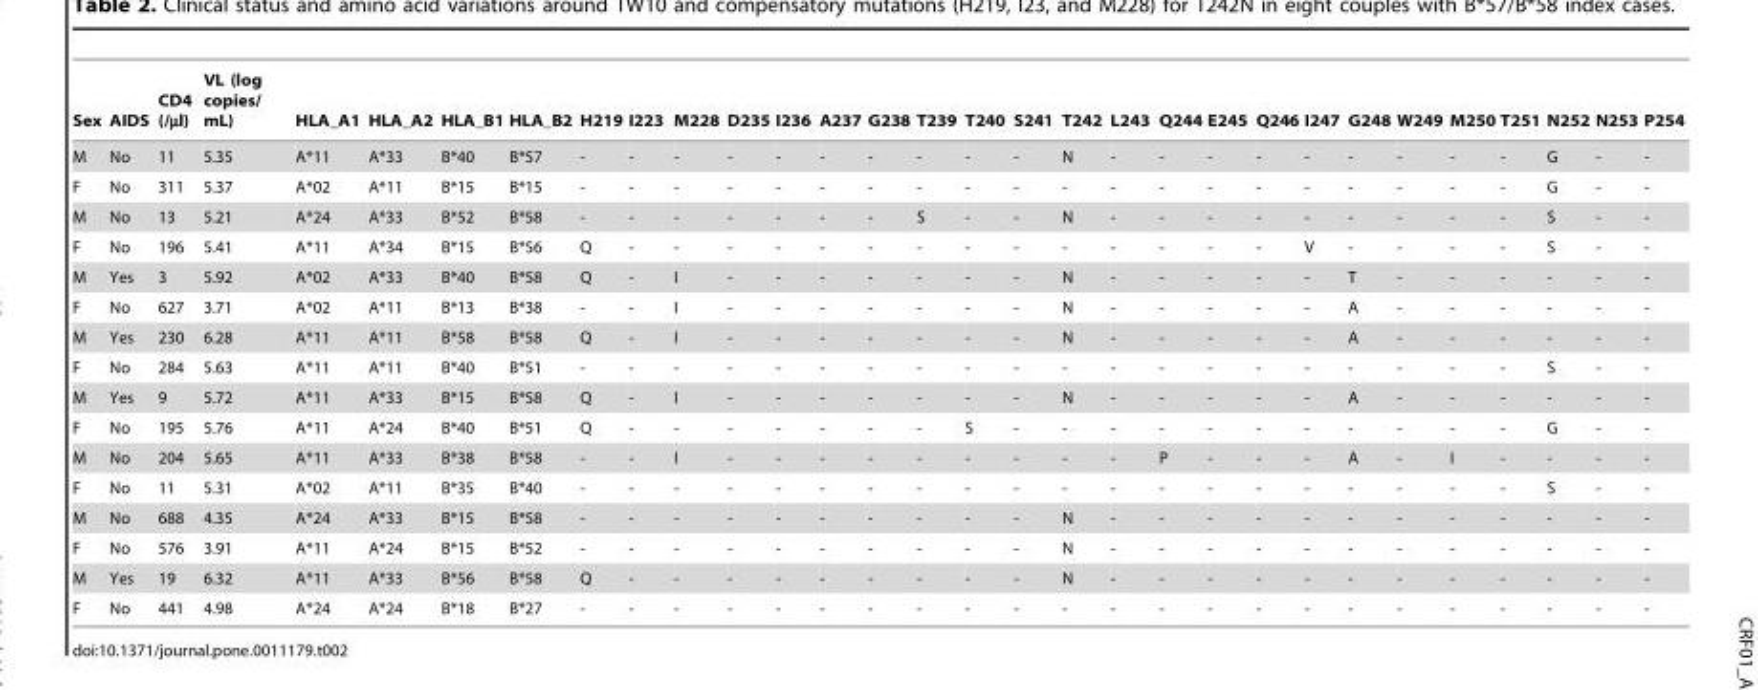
<table><thead><tr><td>Sex</td><td>AIDS</td><td>CD4 (/µl)</td><td>VL (log copies/ mL)</td><td>HLA_A1</td><td>HLA_A2</td><td>HLA_B1</td><td>HLA_B2</td><td>H219</td><td>I223</td><td>M228</td><td>D235</td><td>I236</td><td>A237</td><td>G238</td><td>T239</td><td>T240</td><td>S241</td><td>T242</td><td>L243</td><td>Q244</td><td>E245</td><td>Q246</td><td>I247</td><td>G248</td><td>W249</td><td>M250</td><td>T251</td><td>N252</td><td>N253</td><td>P254</td></tr></thead><tbody><tr><td>M</td><td>No</td><td>11</td><td>5.35</td><td>A*11</td><td>A*33</td><td>B*40</td><td>B*57</td><td>-</td><td>-</td><td>-</td><td>-</td><td>-</td><td>-</td><td>-</td><td>-</td><td>-</td><td>-</td><td>N</td><td>-</td><td>-</td><td>-</td><td>-</td><td>-</td><td>-</td><td>-</td><td>-</td><td>-</td><td>G</td><td>-</td><td>-</td></tr><tr><td>F</td><td>No</td><td>311</td><td>5.37</td><td>A*02</td><td>A*11</td><td>B*15</td><td>B*15</td><td>-</td><td>-</td><td>-</td><td>-</td><td>-</td><td>-</td><td>-</td><td>-</td><td>-</td><td>-</td><td>-</td><td>-</td><td>-</td><td>-</td><td>-</td><td>-</td><td>-</td><td>-</td><td>-</td><td>-</td><td>G</td><td>-</td><td>-</td></tr><tr><td>M</td><td>No</td><td>13</td><td>5.21</td><td>A*24</td><td>A*33</td><td>B*52</td><td>B*58</td><td>-</td><td>-</td><td>-</td><td>-</td><td>-</td><td>-</td><td>-</td><td>S</td><td>-</td><td>-</td><td>N</td><td>-</td><td>-</td><td>-</td><td>-</td><td>-</td><td>-</td><td>-</td><td>-</td><td>-</td><td>S</td><td>-</td><td>-</td></tr><tr><td>F</td><td>No</td><td>196</td><td>5.41</td><td>A*11</td><td>A*34</td><td>B*15</td><td>B*56</td><td>Q</td><td>-</td><td>-</td><td>-</td><td>-</td><td>-</td><td>-</td><td>-</td><td>-</td><td>-</td><td>-</td><td>-</td><td>-</td><td>-</td><td>-</td><td>V</td><td>-</td><td>-</td><td>-</td><td>-</td><td>S</td><td>-</td><td>-</td></tr><tr><td>M</td><td>Yes</td><td>3</td><td>5.92</td><td>A*02</td><td>A*33</td><td>B*40</td><td>B*58</td><td>Q</td><td>-</td><td>I</td><td>-</td><td>-</td><td>-</td><td>-</td><td>-</td><td>-</td><td>-</td><td>N</td><td>-</td><td>-</td><td>-</td><td>-</td><td>-</td><td>T</td><td>-</td><td>-</td><td>-</td><td>-</td><td>-</td><td>-</td></tr><tr><td>F</td><td>No</td><td>627</td><td>3.71</td><td>A*02</td><td>A*11</td><td>B*13</td><td>B*38</td><td>-</td><td>-</td><td>I</td><td>-</td><td>-</td><td>-</td><td>-</td><td>-</td><td>-</td><td>-</td><td>N</td><td>-</td><td>-</td><td>-</td><td>-</td><td>-</td><td>A</td><td>-</td><td>-</td><td>-</td><td>-</td><td>-</td><td>-</td></tr><tr><td>M</td><td>Yes</td><td>230</td><td>6.28</td><td>A*11</td><td>A*11</td><td>B*58</td><td>B*58</td><td>Q</td><td>-</td><td>I</td><td>-</td><td>-</td><td>-</td><td>-</td><td>-</td><td>-</td><td>-</td><td>N</td><td>-</td><td>-</td><td>-</td><td>-</td><td>-</td><td>A</td><td>-</td><td>-</td><td>-</td><td>-</td><td>-</td><td>-</td></tr><tr><td>F</td><td>No</td><td>284</td><td>5.63</td><td>A*11</td><td>A*11</td><td>B*40</td><td>B*51</td><td>-</td><td>-</td><td>-</td><td>-</td><td>-</td><td>-</td><td>-</td><td>-</td><td>-</td><td>-</td><td>-</td><td>-</td><td>-</td><td>-</td><td>-</td><td>-</td><td>-</td><td>-</td><td>-</td><td>-</td><td>S</td><td>-</td><td>-</td></tr><tr><td>M</td><td>Yes</td><td>9</td><td>5.72</td><td>A*11</td><td>A*33</td><td>B*15</td><td>B*58</td><td>Q</td><td>-</td><td>I</td><td>-</td><td>-</td><td>-</td><td>-</td><td>-</td><td>-</td><td>-</td><td>N</td><td>-</td><td>-</td><td>-</td><td>-</td><td>-</td><td>A</td><td>-</td><td>-</td><td>-</td><td>-</td><td>-</td><td>-</td></tr><tr><td>F</td><td>No</td><td>195</td><td>5.76</td><td>A*11</td><td>A*24</td><td>B*40</td><td>B*51</td><td>Q</td><td>-</td><td>-</td><td>-</td><td>-</td><td>-</td><td>-</td><td>-</td><td>S</td><td>-</td><td>-</td><td>-</td><td>-</td><td>-</td><td>-</td><td>-</td><td>-</td><td>-</td><td>-</td><td>-</td><td>G</td><td>-</td><td>-</td></tr><tr><td>M</td><td>No</td><td>204</td><td>5.65</td><td>A*11</td><td>A*33</td><td>B*38</td><td>B*58</td><td>-</td><td>-</td><td>I</td><td>-</td><td>-</td><td>-</td><td>-</td><td>-</td><td>-</td><td>-</td><td>-</td><td>-</td><td>P</td><td>-</td><td>-</td><td>-</td><td>A</td><td>-</td><td>I</td><td>-</td><td>-</td><td>-</td><td>-</td></tr><tr><td>F</td><td>No</td><td>11</td><td>5.31</td><td>A*02</td><td>A*11</td><td>B*35</td><td>B*40</td><td>-</td><td>-</td><td>-</td><td>-</td><td>-</td><td>-</td><td>-</td><td>-</td><td>-</td><td>-</td><td>-</td><td>-</td><td>-</td><td>-</td><td>-</td><td>-</td><td>-</td><td>-</td><td>-</td><td>-</td><td>S</td><td>-</td><td>-</td></tr><tr><td>M</td><td>No</td><td>688</td><td>4.35</td><td>A*24</td><td>A*33</td><td>B*15</td><td>B*58</td><td>-</td><td>-</td><td>-</td><td>-</td><td>-</td><td>-</td><td>-</td><td>-</td><td>-</td><td>-</td><td>N</td><td>-</td><td>-</td><td>-</td><td>-</td><td>-</td><td>-</td><td>-</td><td>-</td><td>-</td><td>-</td><td>-</td><td>-</td></tr><tr><td>F</td><td>No</td><td>576</td><td>3.91</td><td>A*11</td><td>A*24</td><td>B*15</td><td>B*52</td><td>-</td><td>-</td><td>-</td><td>-</td><td>-</td><td>-</td><td>-</td><td>-</td><td>-</td><td>-</td><td>N</td><td>-</td><td>-</td><td>-</td><td>-</td><td>-</td><td>-</td><td>-</td><td>-</td><td>-</td><td>-</td><td>-</td><td>-</td></tr><tr><td>M</td><td>Yes</td><td>19</td><td>6.32</td><td>A*11</td><td>A*33</td><td>B*56</td><td>B*58</td><td>Q</td><td>-</td><td>-</td><td>-</td><td>-</td><td>-</td><td>-</td><td>-</td><td>-</td><td>-</td><td>N</td><td>-</td><td>-</td><td>-</td><td>-</td><td>-</td><td>-</td><td>-</td><td>-</td><td>-</td><td>-</td><td>-</td><td>-</td></tr><tr><td>F</td><td>No</td><td>441</td><td>4.98</td><td>A*24</td><td>A*24</td><td>B*18</td><td>B*27</td><td>-</td><td>-</td><td>-</td><td>-</td><td>-</td><td>-</td><td>-</td><td>-</td><td>-</td><td>-</td><td>-</td><td>-</td><td>-</td><td>-</td><td>-</td><td>-</td><td>-</td><td>-</td><td>-</td><td>-</td><td>-</td><td>-</td><td>-</td></tr></tbody></table>